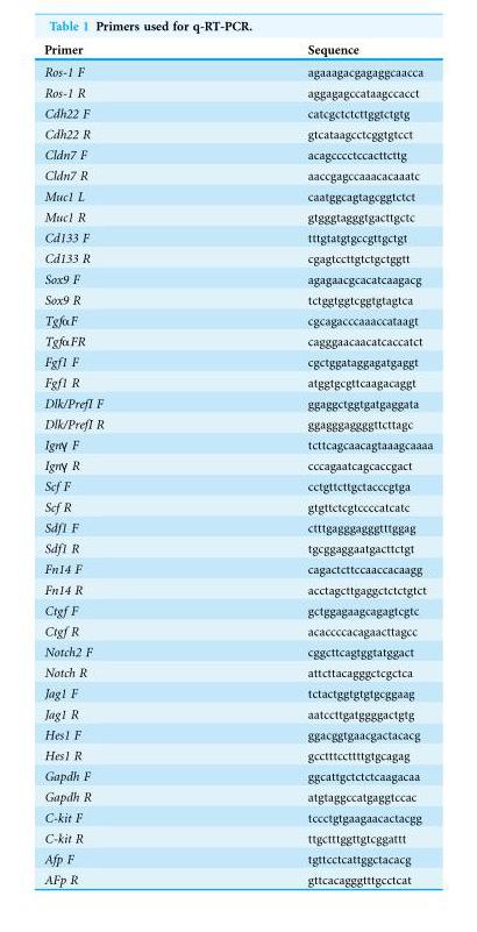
<table><thead><tr><td>Primer</td><td>Sequence</td></tr></thead><tbody><tr><td>Ros-1 F</td><td>agaaagacgagaggcaacca</td></tr><tr><td>Ros-1 R</td><td>aggagagccataagccacct</td></tr><tr><td>Cdh22 F</td><td>catcgctctcttggtctgtg</td></tr><tr><td>Cdh22 R</td><td>gtcataagcctcggtgtcct</td></tr><tr><td>Cldn7 F</td><td>acagcccctccacttcttg</td></tr><tr><td>Cldn7 R</td><td>aaccgagccaaacacaaatc</td></tr><tr><td>Muc1 L</td><td>caatggcagtagcggtctct</td></tr><tr><td>Muc1 R</td><td>gtgggtagggtgacttgctc</td></tr><tr><td>Cd133 F</td><td>tttgtatgtgccgttgctgt</td></tr><tr><td>Cd133 R</td><td>cgagtccttgtctgctggtt</td></tr><tr><td>Sox9 F</td><td>agagaacgcacatcaagacg</td></tr><tr><td>Sox9 R</td><td>tctggtggtcggtgtagtca</td></tr><tr><td>TgfαF</td><td>cgcagacccaaaccataagt</td></tr><tr><td>TgfαFR</td><td>cagggaacaacatcaccatct</td></tr><tr><td>Fgf1 F</td><td>cgctggataggagatgaggt</td></tr><tr><td>Fgf1 R</td><td>atggtgcgttcaagacaggt</td></tr><tr><td>Dlk/PrefI F</td><td>ggaggctggtgatgaggata</td></tr><tr><td>Dlk/PrefI R</td><td>ggagggaggggttcttagc</td></tr><tr><td>Ignγ F</td><td>tcttcagcaacagtaaagcaaaa</td></tr><tr><td>Ignγ R</td><td>cccagaatcagcaccgact</td></tr><tr><td>Scf F</td><td>cctgttcttgctacccgtga</td></tr><tr><td>Scf R</td><td>gtgttctcgtccccatcatc</td></tr><tr><td>Sdf1 F</td><td>ctttgagggagggtttggag</td></tr><tr><td>Sdf1 R</td><td>tgcggaggaatgacttctgt</td></tr><tr><td>Fn14 F</td><td>cagactcttccaaccacaagg</td></tr><tr><td>Fn14 R</td><td>acctagcttgaggctctctgtct</td></tr><tr><td>Ctgf F</td><td>gctggagaagcagagtcgtc</td></tr><tr><td>Ctgf R</td><td>acaccccacagaacttagcc</td></tr><tr><td>Notch2 F</td><td>cggcttcagtggtatggact</td></tr><tr><td>Notch R</td><td>attcttacagggctcgctca</td></tr><tr><td>Jag1 F</td><td>tctactggtgtgtgcggaag</td></tr><tr><td>Jag1 R</td><td>aatccttgatggggactgtg</td></tr><tr><td>Hes1 F</td><td>ggacggtgaacgactacacg</td></tr><tr><td>Hes1 R</td><td>gcctttccttttgtgcagag</td></tr><tr><td>Gapdh F</td><td>ggcattgctctctcaagacaa</td></tr><tr><td>Gapdh R</td><td>atgtaggccatgaggtccac</td></tr><tr><td>C-kit F</td><td>tccctgtgaagaacactacgg</td></tr><tr><td>C-kit R</td><td>ttgctttggttgtcggattt</td></tr><tr><td>Afp F</td><td>tgttcctcattggctacacg</td></tr><tr><td>AFp R</td><td>gttcacagggtttgcctcat</td></tr></tbody></table>